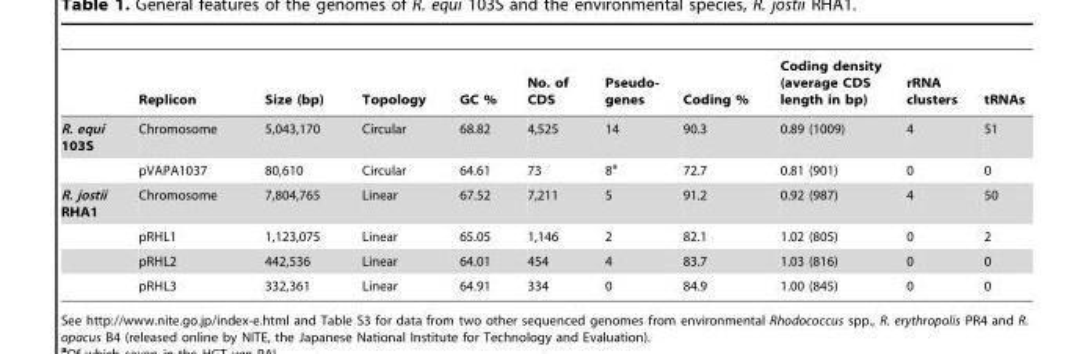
<table><thead><tr><td></td><td>Replicon</td><td>Size (bp)</td><td>Topology</td><td>GC %</td><td>No. of CDS</td><td>Pseudo- genes</td><td>Coding %</td><td>Coding density (average CDS length in bp)</td><td>rRNA clusters</td><td>tRNAs</td></tr></thead><tbody><tr><td rowspan="2">R. equi 103S</td><td>Chromosome</td><td>5,043,170</td><td>Circular</td><td>68.82</td><td>4,525</td><td>14</td><td>90.3</td><td>0.89 (1009)</td><td>4</td><td>51</td></tr><tr><td>pVAPA1037</td><td>80,610</td><td>Circular</td><td>64.61</td><td>73</td><td>8<sup>a</sup></td><td>72.7</td><td>0.81 (901)</td><td>0</td><td>0</td></tr><tr><td rowspan="4">R. jostii RHA1</td><td>Chromosome</td><td>7,804,765</td><td>Linear</td><td>67.52</td><td>7,211</td><td>5</td><td>91.2</td><td>0.92 (987)</td><td>4</td><td>50</td></tr><tr><td>pRHL1</td><td>1,123,075</td><td>Linear</td><td>65.05</td><td>1,146</td><td>2</td><td>82.1</td><td>1.02 (805)</td><td>0</td><td>2</td></tr><tr><td>pRHL2</td><td>442,536</td><td>Linear</td><td>64.01</td><td>454</td><td>4</td><td>83.7</td><td>1.03 (816)</td><td>0</td><td>0</td></tr><tr><td>pRHL3</td><td>332,361</td><td>Linear</td><td>64.91</td><td>334</td><td>0</td><td>84.9</td><td>1.00 (845)</td><td>0</td><td>0</td></tr></tbody></table>